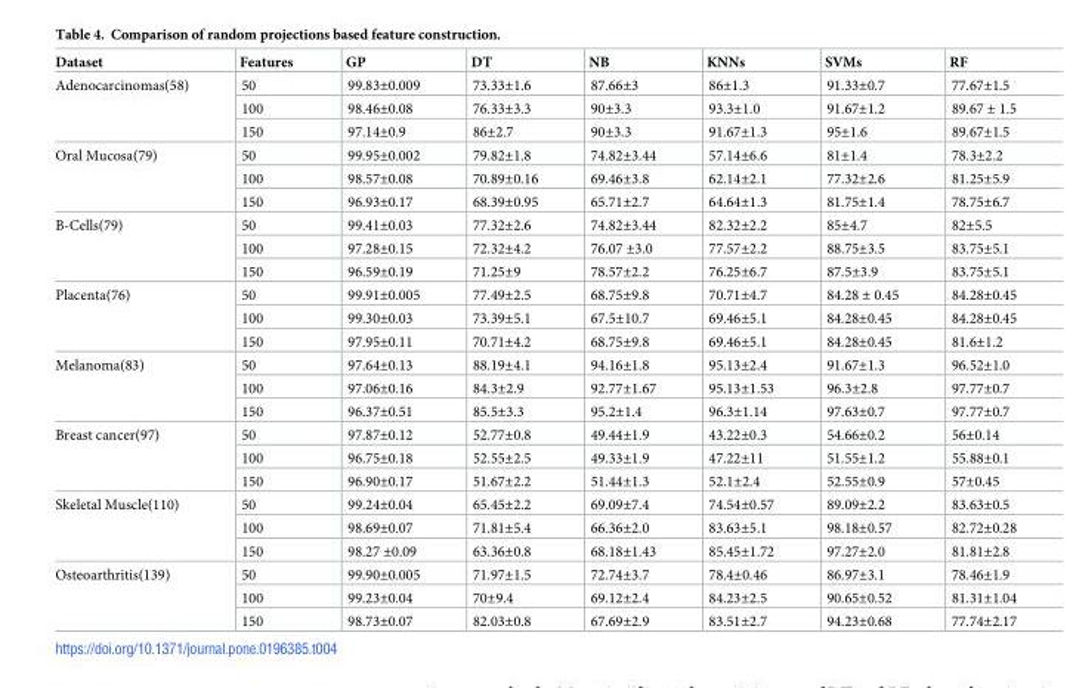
<table><thead><tr><td>Dataset</td><td>Features</td><td>GP</td><td>DT</td><td>NB</td><td>KNNs</td><td>SVMs</td><td>RF</td></tr></thead><tbody><tr><td rowspan="3">Adenocarcinomas(58)</td><td>50</td><td>99.83±0.009</td><td>73.33±1.6</td><td>87.66±3</td><td>86±1.3</td><td>91.33±0.7</td><td>77.67±1.5</td></tr><tr><td>100</td><td>98.46±0.08</td><td>76.33±3.3</td><td>90±3.3</td><td>93.3±1.0</td><td>91.67±1.2</td><td>89.67 ± 1.5</td></tr><tr><td>150</td><td>97.14±0.9</td><td>86±2.7</td><td>90±3.3</td><td>91.67±1.3</td><td>95±1.6</td><td>89.67±1.5</td></tr><tr><td rowspan="3">Oral Mucosa(79)</td><td>50</td><td>99.95±0.002</td><td>79.82±1.8</td><td>74.82±3.44</td><td>57.14±6.6</td><td>81±1.4</td><td>78.3±2.2</td></tr><tr><td>100</td><td>98.57±0.08</td><td>70.89±0.16</td><td>69.46±3.8</td><td>62.14±2.1</td><td>77.32±2.6</td><td>81.25±5.9</td></tr><tr><td>150</td><td>96.93±0.17</td><td>68.39±0.95</td><td>65.71±2.7</td><td>64.64±1.3</td><td>81.75±1.4</td><td>78.75±6.7</td></tr><tr><td rowspan="3">B-Cells(79)</td><td>50</td><td>99.41±0.03</td><td>77.32±2.6</td><td>74.82±3.44</td><td>82.32±2.2</td><td>85±4.7</td><td>82±5.5</td></tr><tr><td>100</td><td>97.28±0.15</td><td>72.32±4.2</td><td>76.07 ±3.0</td><td>77.57±2.2</td><td>88.75±3.5</td><td>83.75±5.1</td></tr><tr><td>150</td><td>96.59±0.19</td><td>71.25±9</td><td>78.57±2.2</td><td>76.25±6.7</td><td>87.5±3.9</td><td>83.75±5.1</td></tr><tr><td rowspan="3">Placenta(76)</td><td>50</td><td>99.91±0.005</td><td>77.49±2.5</td><td>68.75±9.8</td><td>70.71±4.7</td><td>84.28 ± 0.45</td><td>84.28±0.45</td></tr><tr><td>100</td><td>99.30±0.03</td><td>73.39±5.1</td><td>67.5±10.7</td><td>69.46±5.1</td><td>84.28±0.45</td><td>84.28±0.45</td></tr><tr><td>150</td><td>97.95±0.11</td><td>70.71±4.2</td><td>68.75±9.8</td><td>69.46±5.1</td><td>84.28±0.45</td><td>81.6±1.2</td></tr><tr><td rowspan="3">Melanoma(83)</td><td>50</td><td>97.64±0.13</td><td>88.19±4.1</td><td>94.16±1.8</td><td>95.13±2.4</td><td>91.67±1.3</td><td>96.52±1.0</td></tr><tr><td>100</td><td>97.06±0.16</td><td>84.3±2.9</td><td>92.77±1.67</td><td>95.13±1.53</td><td>96.3±2.8</td><td>97.77±0.7</td></tr><tr><td>150</td><td>96.37±0.51</td><td>85.5±3.3</td><td>95.2±1.4</td><td>96.3±1.14</td><td>97.63±0.7</td><td>97.77±0.7</td></tr><tr><td rowspan="3">Breast cancer(97)</td><td>50</td><td>97.87±0.12</td><td>52.77±0.8</td><td>49.44±1.9</td><td>43.22±0.3</td><td>54.66±0.2</td><td>56±0.14</td></tr><tr><td>100</td><td>96.75±0.18</td><td>52.55±2.5</td><td>49.33±1.9</td><td>47.22±11</td><td>51.55±1.2</td><td>55.88±0.1</td></tr><tr><td>150</td><td>96.90±0.17</td><td>51.67±2.2</td><td>51.44±1.3</td><td>52.1±2.4</td><td>52.55±0.9</td><td>57±0.45</td></tr><tr><td rowspan="3">Skeletal Muscle(110)</td><td>50</td><td>99.24±0.04</td><td>65.45±2.2</td><td>69.09±7.4</td><td>74.54±0.57</td><td>89.09±2.2</td><td>83.63±0.5</td></tr><tr><td>100</td><td>98.69±0.07</td><td>71.81±5.4</td><td>66.36±2.0</td><td>83.63±5.1</td><td>98.18±0.57</td><td>82.72±0.28</td></tr><tr><td>150</td><td>98.27 ±0.09</td><td>63.36±0.8</td><td>68.18±1.43</td><td>85.45±1.72</td><td>97.27±2.0</td><td>81.81±2.8</td></tr><tr><td rowspan="3">Osteoarthritis(139)</td><td>50</td><td>99.90±0.005</td><td>71.97±1.5</td><td>72.74±3.7</td><td>78.4±0.46</td><td>86.97±3.1</td><td>78.46±1.9</td></tr><tr><td>100</td><td>99.23±0.04</td><td>70±9.4</td><td>69.12±2.4</td><td>84.23±2.5</td><td>90.65±0.52</td><td>81.31±1.04</td></tr><tr><td>150</td><td>98.73±0.07</td><td>82.03±0.8</td><td>67.69±2.9</td><td>83.51±2.7</td><td>94.23±0.68</td><td>77.74±2.17</td></tr></tbody></table>